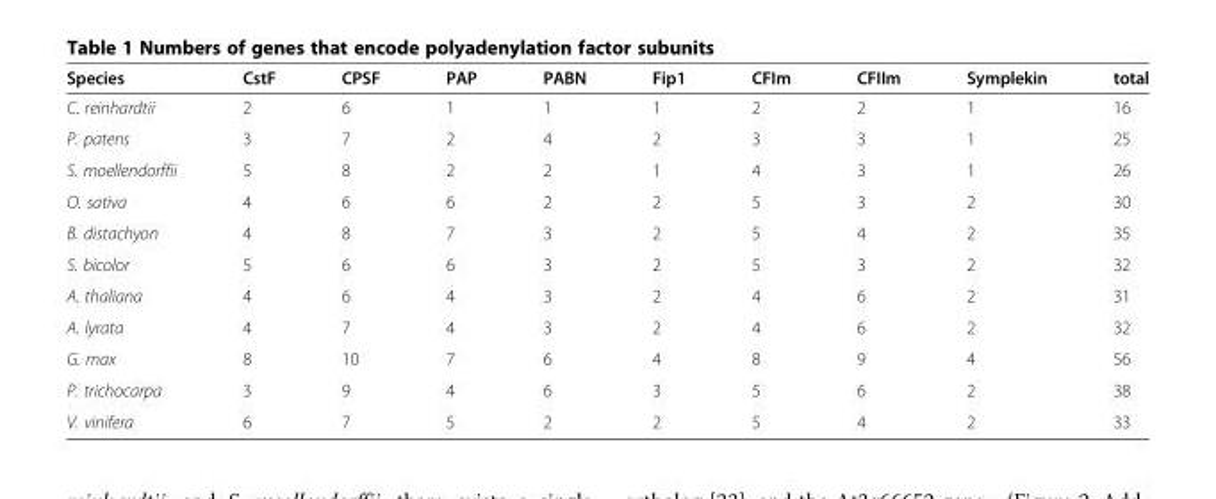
<table><thead><tr><td>Species</td><td>CstF</td><td>CPSF</td><td>PAP</td><td>PABN</td><td>Fip1</td><td>CFIm</td><td>CFIIm</td><td>Symplekin</td><td>total</td></tr></thead><tbody><tr><td>C. reinhardtii</td><td>2</td><td>6</td><td>1</td><td>1</td><td>1</td><td>2</td><td>2</td><td>1</td><td>16</td></tr><tr><td>P. patens</td><td>3</td><td>7</td><td>2</td><td>4</td><td>2</td><td>3</td><td>3</td><td>1</td><td>25</td></tr><tr><td>S. moellendorffii</td><td>5</td><td>8</td><td>2</td><td>2</td><td>1</td><td>4</td><td>3</td><td>1</td><td>26</td></tr><tr><td>O. sativa</td><td>4</td><td>6</td><td>6</td><td>2</td><td>2</td><td>5</td><td>3</td><td>2</td><td>30</td></tr><tr><td>B. distachyon</td><td>4</td><td>8</td><td>7</td><td>3</td><td>2</td><td>5</td><td>4</td><td>2</td><td>35</td></tr><tr><td>S. bicolor</td><td>5</td><td>6</td><td>6</td><td>3</td><td>2</td><td>5</td><td>3</td><td>2</td><td>32</td></tr><tr><td>A. thaliana</td><td>4</td><td>6</td><td>4</td><td>3</td><td>2</td><td>4</td><td>6</td><td>2</td><td>31</td></tr><tr><td>A. lyrata</td><td>4</td><td>7</td><td>4</td><td>3</td><td>2</td><td>4</td><td>6</td><td>2</td><td>32</td></tr><tr><td>G. max</td><td>8</td><td>10</td><td>7</td><td>6</td><td>4</td><td>8</td><td>9</td><td>4</td><td>56</td></tr><tr><td>P. trichocarpa</td><td>3</td><td>9</td><td>4</td><td>6</td><td>3</td><td>5</td><td>6</td><td>2</td><td>38</td></tr><tr><td>V. vinifera</td><td>6</td><td>7</td><td>5</td><td>2</td><td>2</td><td>5</td><td>4</td><td>2</td><td>33</td></tr></tbody></table>